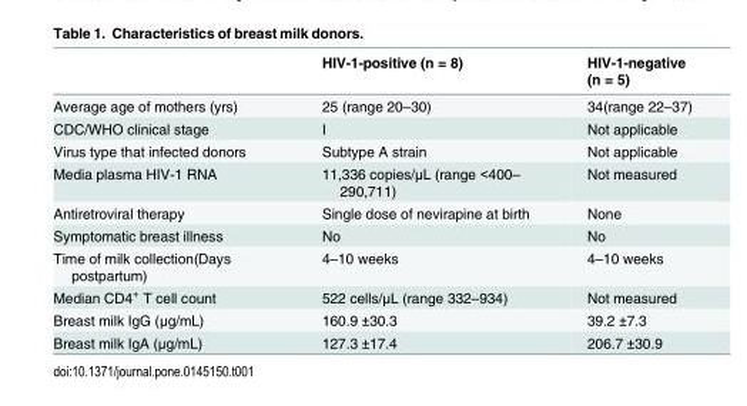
<table><thead><tr><td></td><td>HIV-1-positive (n = 8)</td><td>HIV-1-negative (n = 5)</td></tr></thead><tbody><tr><td>Average age of mothers (yrs)</td><td>25 (range 20–30)</td><td>34(range 22–37)</td></tr><tr><td>CDC/WHO clinical stage</td><td>I</td><td>Not applicable</td></tr><tr><td>Virus type that infected donors</td><td>Subtype A strain</td><td>Not applicable</td></tr><tr><td>Media plasma HIV-1 RNA</td><td>11,336 copies/μL (range &lt;400– 290,711)</td><td>Not measured</td></tr><tr><td>Antiretroviral therapy</td><td>Single dose of nevirapine at birth</td><td>None</td></tr><tr><td>Symptomatic breast illness</td><td>No</td><td>No</td></tr><tr><td>Time of milk collection(Days postpartum)</td><td>4–10 weeks</td><td>4–10 weeks</td></tr><tr><td>Median CD4<sup>+</sup> T cell count</td><td>522 cells/μL (range 332–934)</td><td>Not measured</td></tr><tr><td>Breast milk IgG (μg/mL)</td><td>160.9 ±30.3</td><td>39.2 ±7.3</td></tr><tr><td>Breast milk IgA (μg/mL)</td><td>127.3 ±17.4</td><td>206.7 ±30.9</td></tr></tbody></table>